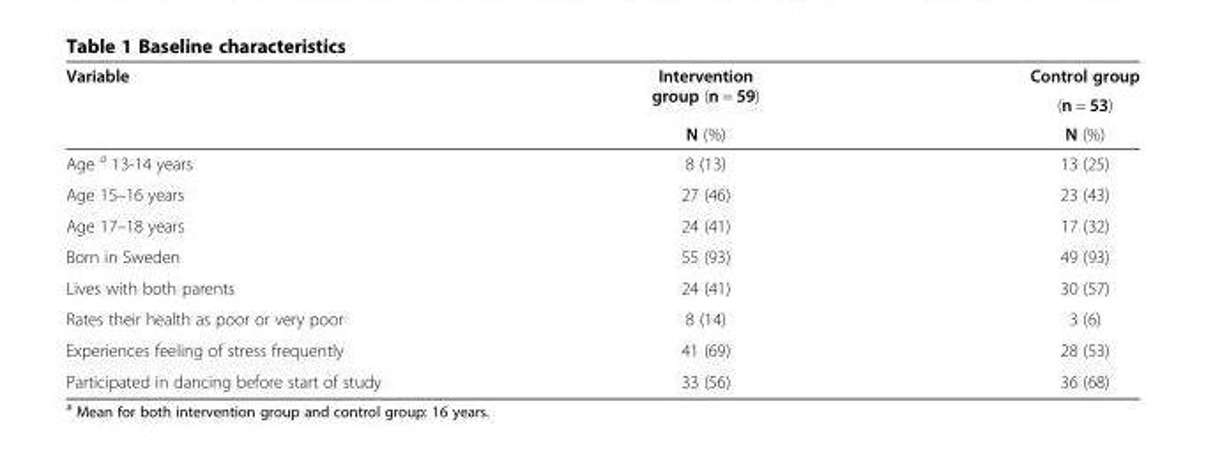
<table><thead><tr><td rowspan="2">Variable</td><td rowspan="2">Intervention group (n = 59) N (%)</td><td rowspan="2">Control group (n = 53) N (%)</td></tr><tr></tr></thead><tbody><tr><td>Age <sup>a</sup> 13-14 years</td><td>8 (13)</td><td>13 (25)</td></tr><tr><td>Age 15–16 years</td><td>27 (46)</td><td>23 (43)</td></tr><tr><td>Age 17–18 years</td><td>24 (41)</td><td>17 (32)</td></tr><tr><td>Born in Sweden</td><td>55 (93)</td><td>49 (93)</td></tr><tr><td>Lives with both parents</td><td>24 (41)</td><td>30 (57)</td></tr><tr><td>Rates their health as poor or very poor</td><td>8 (14)</td><td>3 (6)</td></tr><tr><td>Experiences feeling of stress frequently</td><td>41 (69)</td><td>28 (53)</td></tr><tr><td>Participated in dancing before start of study</td><td>33 (56)</td><td>36 (68)</td></tr></tbody></table>